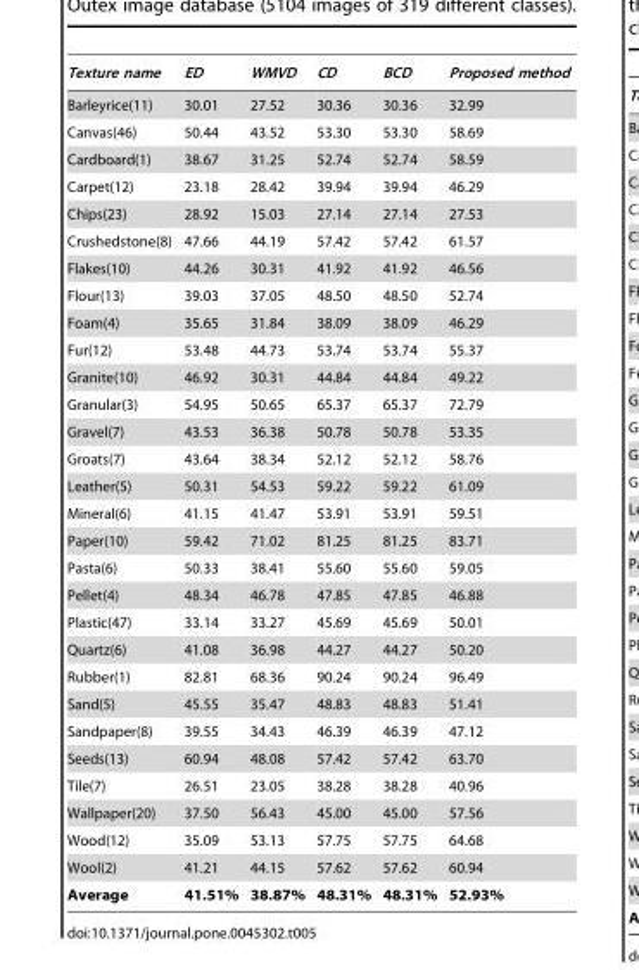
<table><thead><tr><td>Texture name</td><td>ED</td><td>WMVD</td><td>CD</td><td>BCD</td><td>Proposed method</td></tr></thead><tbody><tr><td>Barleyrice(11)</td><td>30.01</td><td>27.52</td><td>30.36</td><td>30.36</td><td>32.99</td></tr><tr><td>Canvas(46)</td><td>50.44</td><td>43.52</td><td>53.30</td><td>53.30</td><td>58.69</td></tr><tr><td>Cardboard(1)</td><td>38.67</td><td>31.25</td><td>52.74</td><td>52.74</td><td>58.59</td></tr><tr><td>Carpet(12)</td><td>23.18</td><td>28.42</td><td>39.94</td><td>39.94</td><td>46.29</td></tr><tr><td>Chips(23)</td><td>28.92</td><td>15.03</td><td>27.14</td><td>27.14</td><td>27.53</td></tr><tr><td>Crushedstone(8)</td><td>47.66</td><td>44.19</td><td>57.42</td><td>57.42</td><td>61.57</td></tr><tr><td>Flakes(10)</td><td>44.26</td><td>30.31</td><td>41.92</td><td>41.92</td><td>46.56</td></tr><tr><td>Flour(13)</td><td>39.03</td><td>37.05</td><td>48.50</td><td>48.50</td><td>52.74</td></tr><tr><td>Foam(4)</td><td>35.65</td><td>31.84</td><td>38.09</td><td>38.09</td><td>46.29</td></tr><tr><td>Fur(12)</td><td>53.48</td><td>44.73</td><td>53.74</td><td>53.74</td><td>55.37</td></tr><tr><td>Granite(10)</td><td>46.92</td><td>30.31</td><td>44.84</td><td>44.84</td><td>49.22</td></tr><tr><td>Granular(3)</td><td>54.95</td><td>50.65</td><td>65.37</td><td>65.37</td><td>72.79</td></tr><tr><td>Gravel(7)</td><td>43.53</td><td>36.38</td><td>50.78</td><td>50.78</td><td>53.35</td></tr><tr><td>Groats(7)</td><td>43.64</td><td>38.34</td><td>52.12</td><td>52.12</td><td>58.76</td></tr><tr><td>Leather(5)</td><td>50.31</td><td>54.53</td><td>59.22</td><td>59.22</td><td>61.09</td></tr><tr><td>Mineral(6)</td><td>41.15</td><td>41.47</td><td>53.91</td><td>53.91</td><td>59.51</td></tr><tr><td>Paper(10)</td><td>59.42</td><td>71.02</td><td>81.25</td><td>81.25</td><td>83.71</td></tr><tr><td>Pasta(6)</td><td>50.33</td><td>38.41</td><td>55.60</td><td>55.60</td><td>59.05</td></tr><tr><td>Pellet(4)</td><td>48.34</td><td>46.78</td><td>47.85</td><td>47.85</td><td>46.88</td></tr><tr><td>Plastic(47)</td><td>33.14</td><td>33.27</td><td>45.69</td><td>45.69</td><td>50.01</td></tr><tr><td>Quartz(6)</td><td>41.08</td><td>36.98</td><td>44.27</td><td>44.27</td><td>50.20</td></tr><tr><td>Rubber(1)</td><td>82.81</td><td>68.36</td><td>90.24</td><td>90.24</td><td>96.49</td></tr><tr><td>Sand(5)</td><td>45.55</td><td>35.47</td><td>48.83</td><td>48.83</td><td>51.41</td></tr><tr><td>Sandpaper(8)</td><td>39.55</td><td>34.43</td><td>46.39</td><td>46.39</td><td>47.12</td></tr><tr><td>Seeds(13)</td><td>60.94</td><td>48.08</td><td>57.42</td><td>57.42</td><td>63.70</td></tr><tr><td>Tile(7)</td><td>26.51</td><td>23.05</td><td>38.28</td><td>38.28</td><td>40.96</td></tr><tr><td>Wallpaper(20)</td><td>37.50</td><td>56.43</td><td>45.00</td><td>45.00</td><td>57.56</td></tr><tr><td>Wood(12)</td><td>35.09</td><td>53.13</td><td>57.75</td><td>57.75</td><td>64.68</td></tr><tr><td>Wool(2)</td><td>41.21</td><td>44.15</td><td>57.62</td><td>57.62</td><td>60.94</td></tr><tr><td>Average</td><td>41.51%</td><td>38.87%</td><td>48.31%</td><td>48.31%</td><td>52.93%</td></tr></tbody></table>